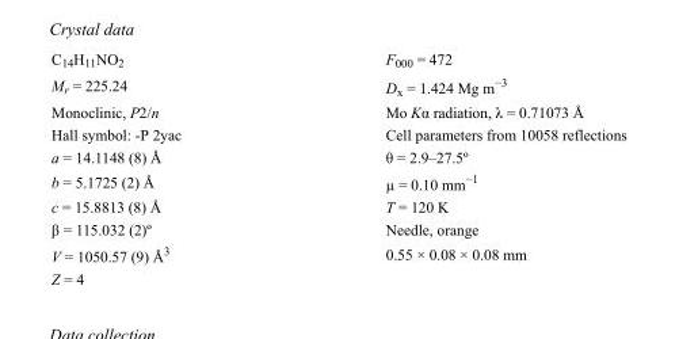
<table><tbody><tr><td>C<sub>14</sub>H<sub>11</sub>NO<sub>2</sub></td><td>F000 = 472</td></tr><tr><td>M<sub>r</sub> = 225.24</td><td>D<sub>x</sub> = 1.424 Mg m<sup>−3</sup></td></tr><tr><td>Monoclinic, P2/n</td><td>Mo Kα radiation, λ = 0.71073 Å</td></tr><tr><td>Hall symbol: -P 2yac</td><td>Cell parameters from 10058 reflections</td></tr><tr><td>a = 14.1148 (8) Å</td><td>θ = 2.9–27.5º</td></tr><tr><td>b = 5.1725 (2) Å</td><td>µ = 0.10 mm<sup>−1</sup></td></tr><tr><td>c = 15.8813 (8) Å</td><td>T = 120 K</td></tr><tr><td>β = 115.032 (2)º</td><td>Needle, orange</td></tr><tr><td>V = 1050.57 (9) Å<sup>3</sup></td><td>0.55 × 0.08 × 0.08 mm</td></tr><tr><td>Z = 4</td><td></td></tr></tbody></table>